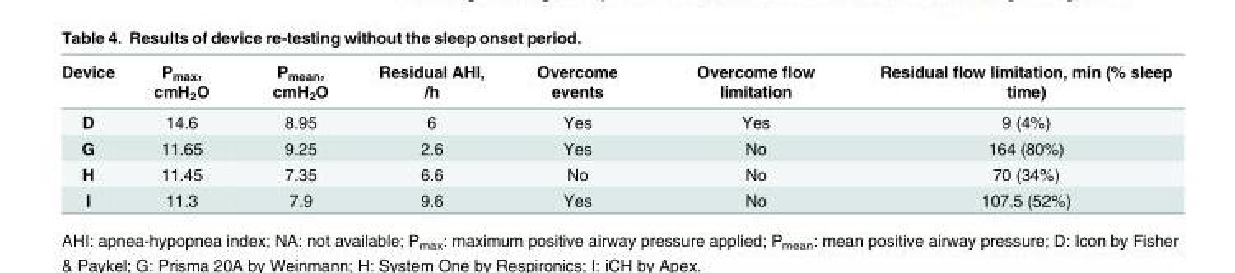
<table><thead><tr><td>Device</td><td>P<sub>max</sub>, cmH<sub>2</sub>O</td><td>P<sub>mean</sub>, cmH<sub>2</sub>O</td><td>Residual AHI, /h</td><td>Overcome events</td><td>Overcome flow limitation</td><td>Residual flow limitation, min (% sleep time)</td></tr></thead><tbody><tr><td>D</td><td>14.6</td><td>8.95</td><td>6</td><td>Yes</td><td>Yes</td><td>9 (4%)</td></tr><tr><td>G</td><td>11.65</td><td>9.25</td><td>2.6</td><td>Yes</td><td>No</td><td>164 (80%)</td></tr><tr><td>H</td><td>11.45</td><td>7.35</td><td>6.6</td><td>No</td><td>No</td><td>70 (34%)</td></tr><tr><td>I</td><td>11.3</td><td>7.9</td><td>9.6</td><td>Yes</td><td>No</td><td>107.5 (52%)</td></tr></tbody></table>